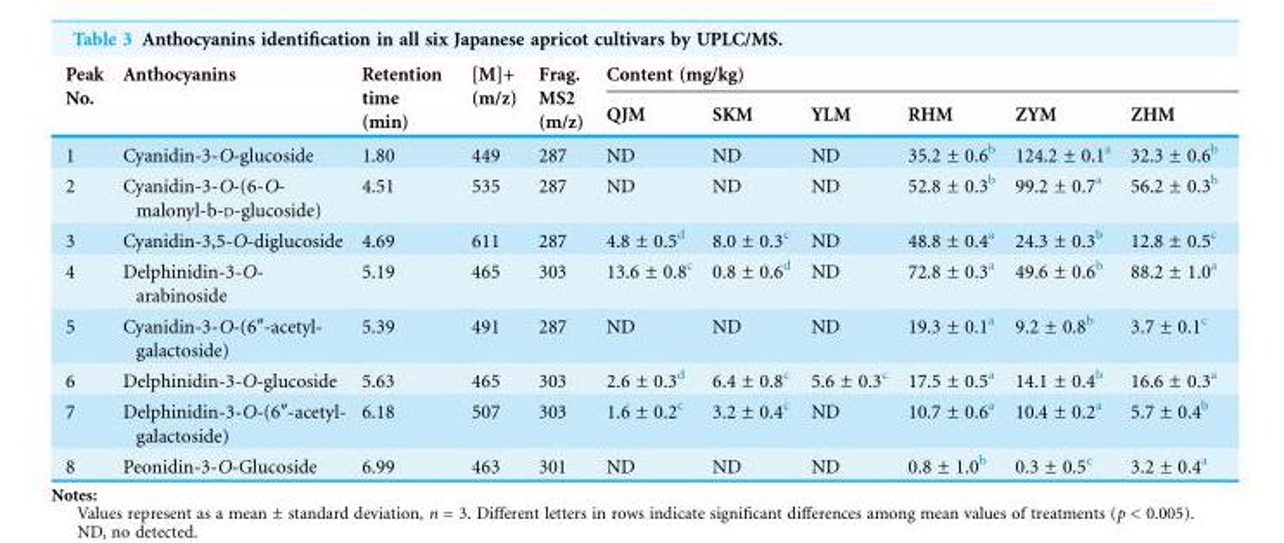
<table><thead><tr><td rowspan="2">Peak No.</td><td rowspan="2">Anthocyanins</td><td rowspan="2">Retention time (min)</td><td rowspan="2">[M]+ (m/z)</td><td rowspan="2">Frag. MS2 (m/z)</td><td colspan="6">Content (mg/kg)</td></tr><tr><td>QJM</td><td>SKM</td><td>YLM</td><td>RHM</td><td>ZYM</td><td>ZHM</td></tr></thead><tbody><tr><td>1</td><td>Cyanidin-3-O-glucoside</td><td>1.80</td><td>449</td><td>287</td><td>ND</td><td>ND</td><td>ND</td><td>35.2 ± 0.6<sup>b</sup></td><td>124.2 ± 0.1<sup>a</sup></td><td>32.3 ± 0.6<sup>b</sup></td></tr><tr><td>2</td><td>Cyanidin-3-O-(6-O- malonyl-b-D-glucoside)</td><td>4.51</td><td>535</td><td>287</td><td>ND</td><td>ND</td><td>ND</td><td>52.8 ± 0.3<sup>b</sup></td><td>99.2 ± 0.7<sup>a</sup></td><td>56.2 ± 0.3<sup>b</sup></td></tr><tr><td>3</td><td>Cyanidin-3,5-O-diglucoside</td><td>4.69</td><td>611</td><td>287</td><td>4.8 ± 0.5<sup>d</sup></td><td>8.0 ± 0.3<sup>c</sup></td><td>ND</td><td>48.8 ± 0.4<sup>a</sup></td><td>24.3 ± 0.3<sup>b</sup></td><td>12.8 ± 0.5<sup>c</sup></td></tr><tr><td>4</td><td>Delphinidin-3-O- arabinoside</td><td>5.19</td><td>465</td><td>303</td><td>13.6 ± 0.8<sup>c</sup></td><td>0.8 ± 0.6<sup>d</sup></td><td>ND</td><td>72.8 ± 0.3<sup>a</sup></td><td>49.6 ± 0.6<sup>b</sup></td><td>88.2 ± 1.0<sup>a</sup></td></tr><tr><td>5</td><td>Cyanidin-3-O-(6″-acetyl- galactoside)</td><td>5.39</td><td>491</td><td>287</td><td>ND</td><td>ND</td><td>ND</td><td>19.3 ± 0.1<sup>a</sup></td><td>9.2 ± 0.8<sup>b</sup></td><td>3.7 ± 0.1<sup>c</sup></td></tr><tr><td>6</td><td>Delphinidin-3-O-glucoside</td><td>5.63</td><td>465</td><td>303</td><td>2.6 ± 0.3<sup>d</sup></td><td>6.4 ± 0.8<sup>c</sup></td><td>5.6 ± 0.3<sup>c</sup></td><td>17.5 ± 0.5<sup>a</sup></td><td>14.1 ± 0.4<sup>b</sup></td><td>16.6 ± 0.3<sup>a</sup></td></tr><tr><td>7</td><td>Delphinidin-3-O-(6″-acetyl- galactoside)</td><td>6.18</td><td>507</td><td>303</td><td>1.6 ± 0.2<sup>c</sup></td><td>3.2 ± 0.4<sup>c</sup></td><td>ND</td><td>10.7 ± 0.6<sup>a</sup></td><td>10.4 ± 0.2<sup>a</sup></td><td>5.7 ± 0.4<sup>b</sup></td></tr><tr><td>8</td><td>Peonidin-3-O-Glucoside</td><td>6.99</td><td>463</td><td>301</td><td>ND</td><td>ND</td><td>ND</td><td>0.8 ± 1.0<sup>b</sup></td><td>0.3 ± 0.5<sup>c</sup></td><td>3.2 ± 0.4<sup>a</sup></td></tr></tbody></table>